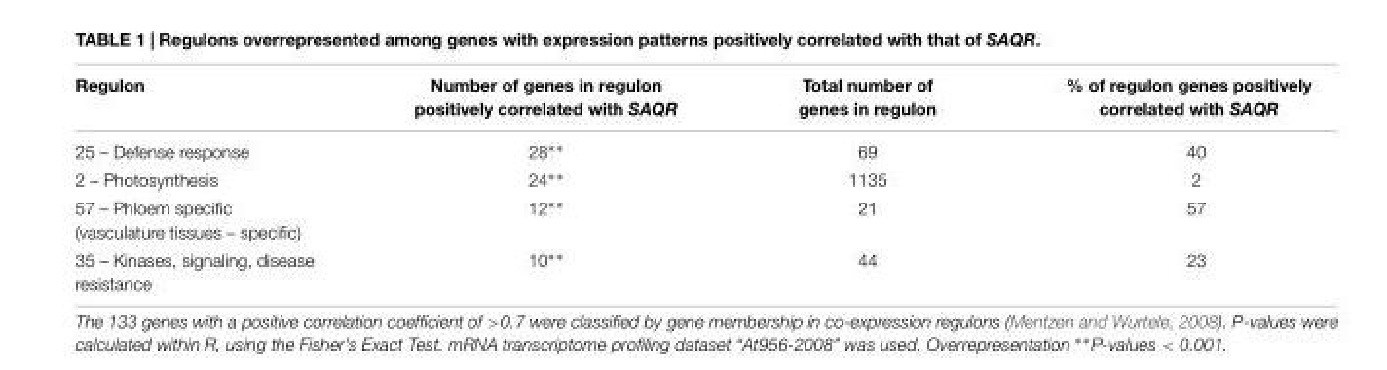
<table><thead><tr><td>Regulon</td><td>Number of genes in regulon positively correlated with SAQR</td><td>Total number of genes in regulon</td><td>% of regulon genes positively correlated with SAQR</td></tr></thead><tbody><tr><td>25 – Defense response</td><td>28∗∗</td><td>69</td><td>40</td></tr><tr><td>2 – Photosynthesis</td><td>24∗∗</td><td>1135</td><td>2</td></tr><tr><td>57 – Phloem specific (vasculature tissues – specific)</td><td>12∗∗</td><td>21</td><td>57</td></tr><tr><td>35 – Kinases, signaling, disease resistance</td><td>10∗∗</td><td>44</td><td>23</td></tr></tbody></table>